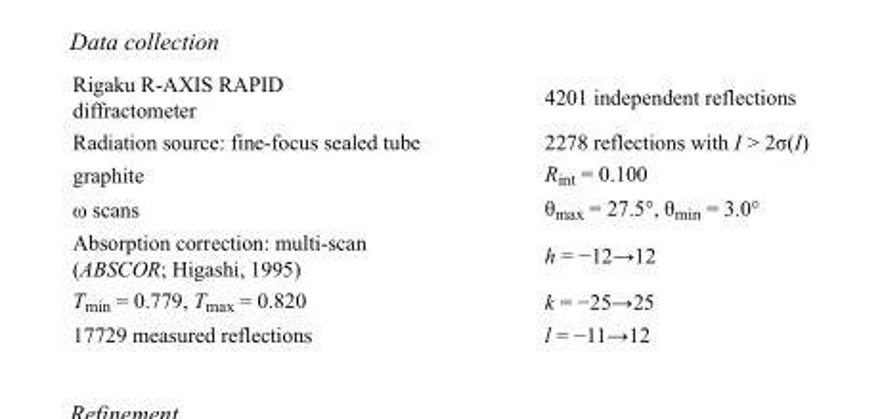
<table><tbody><tr><td>Rigaku R-AXIS RAPID diffractometer</td><td>4201 independent reflections</td></tr><tr><td>Radiation source: fine-focus sealed tube</td><td>2278 reflections with I &gt; 2σ(I)</td></tr><tr><td>graphite</td><td>R<sub>int</sub> = 0.100</td></tr><tr><td>ω scans</td><td>θ<sub>max</sub> = 27.5°, θ<sub>min</sub> = 3.0°</td></tr><tr><td>Absorption correction: multi-scan (ABSCOR; Higashi, 1995)</td><td>h = −12→12</td></tr><tr><td>T<sub>min</sub> = 0.779, T<sub>max</sub> = 0.820</td><td>k = −25→25</td></tr><tr><td>17729 measured reflections</td><td>l = −11→12</td></tr></tbody></table>